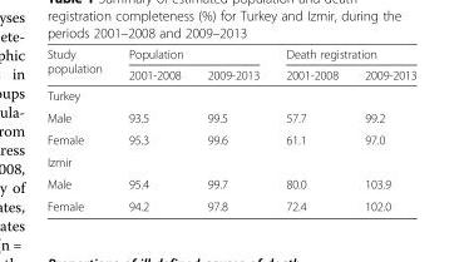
<table><thead><tr><td rowspan="2">Study population</td><td colspan="2">Population</td><td colspan="2">Death registration</td></tr><tr><td>2001-2008</td><td>2009-2013</td><td>2001-2008</td><td>2009-2013</td></tr></thead><tbody><tr><td colspan="5">Turkey</td></tr><tr><td>Male</td><td>93.5</td><td>99.5</td><td>57.7</td><td>99.2</td></tr><tr><td>Female</td><td>95.3</td><td>99.6</td><td>61.1</td><td>97.0</td></tr><tr><td colspan="5">Izmir</td></tr><tr><td>Male</td><td>95.4</td><td>99.7</td><td>80.0</td><td>103.9</td></tr><tr><td>Female</td><td>94.2</td><td>97.8</td><td>72.4</td><td>102.0</td></tr></tbody></table>